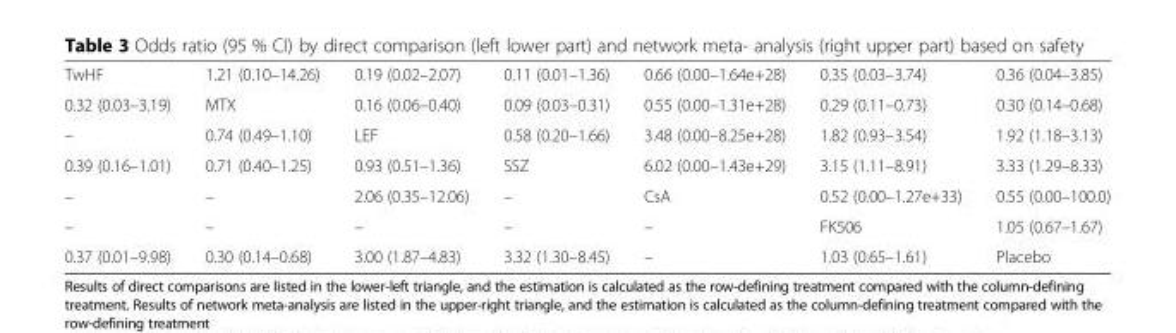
<table><tbody><tr><td>TwHF</td><td>1.21 (0.10–14.26)</td><td>0.19 (0.02–2.07)</td><td>0.11 (0.01–1.36)</td><td>0.66 (0.00–1.64e+28)</td><td>0.35 (0.03–3.74)</td><td>0.36 (0.04–3.85)</td></tr><tr><td>0.32 (0.03–3.19)</td><td>MTX</td><td>0.16 (0.06–0.40)</td><td>0.09 (0.03–0.31)</td><td>0.55 (0.00–1.31e+28)</td><td>0.29 (0.11–0.73)</td><td>0.30 (0.14–0.68)</td></tr><tr><td>–</td><td>0.74 (0.49–1.10)</td><td>LEF</td><td>0.58 (0.20–1.66)</td><td>3.48 (0.00–8.25e+28)</td><td>1.82 (0.93–3.54)</td><td>1.92 (1.18–3.13)</td></tr><tr><td>0.39 (0.16–1.01)</td><td>0.71 (0.40–1.25)</td><td>0.93 (0.51–1.36)</td><td>SSZ</td><td>6.02 (0.00–1.43e+29)</td><td>3.15 (1.11–8.91)</td><td>3.33 (1.29–8.33)</td></tr><tr><td>–</td><td>–</td><td>2.06 (0.35–12.06)</td><td>–</td><td>CsA</td><td>0.52 (0.00–1.27e+33)</td><td>0.55 (0.00–100.0)</td></tr><tr><td>–</td><td>–</td><td>–</td><td>–</td><td>–</td><td>FK506</td><td>1.05 (0.67–1.67)</td></tr><tr><td>0.37 (0.01–9.98)</td><td>0.30 (0.14–0.68)</td><td>3.00 (1.87–4.83)</td><td>3.32 (1.30–8.45)</td><td>–</td><td>1.03 (0.65–1.61)</td><td>Placebo</td></tr></tbody></table>